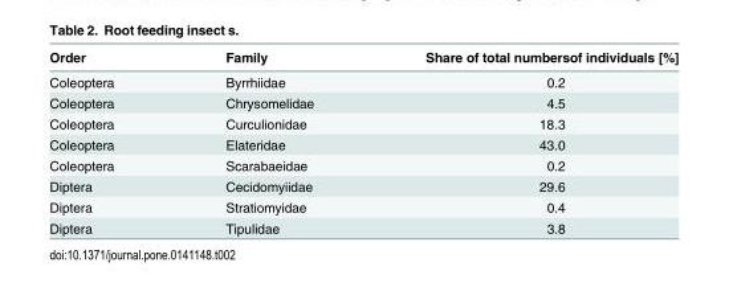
<table><thead><tr><td>Order</td><td>Family</td><td>Share of total numbersof individuals [%]</td></tr></thead><tbody><tr><td>Coleoptera</td><td>Byrrhiidae</td><td>0.2</td></tr><tr><td>Coleoptera</td><td>Chrysomelidae</td><td>4.5</td></tr><tr><td>Coleoptera</td><td>Curculionidae</td><td>18.3</td></tr><tr><td>Coleoptera</td><td>Elateridae</td><td>43.0</td></tr><tr><td>Coleoptera</td><td>Scarabaeidae</td><td>0.2</td></tr><tr><td>Diptera</td><td>Cecidomyiidae</td><td>29.6</td></tr><tr><td>Diptera</td><td>Stratiomyidae</td><td>0.4</td></tr><tr><td>Diptera</td><td>Tipulidae</td><td>3.8</td></tr></tbody></table>